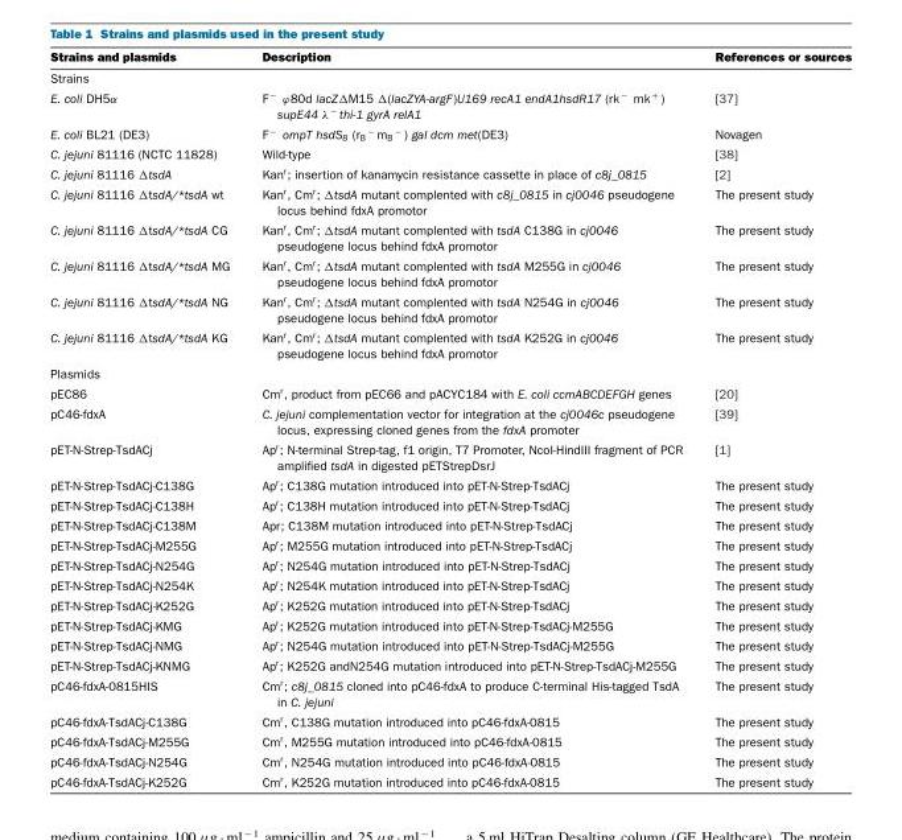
<table><thead><tr><td>Strains and plasmids</td><td>Description</td><td>References or sources</td></tr></thead><tbody><tr><td colspan="3">Strains</td></tr><tr><td>E. coli DH5α</td><td>F <sup>−</sup> ϕ80d lacZΔM15 Δ(lacZYA-argF)U169 recA1 endA1hsdR17 (rk <sup>−</sup> mk <sup>+</sup> ) supE44 λ <sup>−</sup> thi-1 gyrA relA1</td><td>[37]</td></tr><tr><td>E. coli BL21 (DE3)</td><td>F <sup>−</sup> ompT hsdS<sub>B</sub> (r<sub>B</sub> <sup>−</sup> m<sub>B</sub> <sup>−</sup> ) gal dcm met(DE3)</td><td>Novagen</td></tr><tr><td>C. jejuni 81116 (NCTC 11828)</td><td>Wild-type</td><td>[38]</td></tr><tr><td>C. jejuni 81116 ΔtsdA</td><td>Kanr; insertion of kanamycin resistance cassette in place of c8j_0815</td><td>[2]</td></tr><tr><td>C. jejuni 81116 ΔtsdA/*tsdA wt</td><td>Kanr, Cmr; ΔtsdA mutant complented with c8j_0815 in cj0046 pseudogene locus behind fdxA promotor</td><td>The present study</td></tr><tr><td>C. jejuni 81116 ΔtsdA/*tsdA CG</td><td>Kanr, Cmr; ΔtsdA mutant complented with tsdA C138G in cj0046 pseudogene locus behind fdxA promotor</td><td>The present study</td></tr><tr><td>C. jejuni 81116 ΔtsdA/*tsdA MG</td><td>Kanr, Cmr; ΔtsdA mutant complented with tsdA M255G in cj0046 pseudogene locus behind fdxA promotor</td><td>The present study</td></tr><tr><td>C. jejuni 81116 ΔtsdA/*tsdA NG</td><td>Kanr, Cmr; ΔtsdA mutant complented with tsdA N254G in cj0046 pseudogene locus behind fdxA promotor</td><td>The present study</td></tr><tr><td>C. jejuni 81116 ΔtsdA/*tsdA KG</td><td>Kanr, Cmr; ΔtsdA mutant complented with tsdA K252G in cj0046 pseudogene locus behind fdxA promotor</td><td>The present study</td></tr><tr><td colspan="3">Plasmids</td></tr><tr><td>pEC86</td><td>Cmr, product from pEC66 and pACYC184 with E. coli ccmABCDEFGH genes</td><td>[20]</td></tr><tr><td>pC46-fdxA</td><td>C. jejuni complementation vector for integration at the cj0046c pseudogene locus, expressing cloned genes from the fdxA promoter</td><td>[39]</td></tr><tr><td>pET-N-Strep-TsdACj</td><td>Apr; N-terminal Strep-tag, f1 origin, T7 Promoter, NcoI-HindIII fragment of PCR amplified tsdA in digested pETStrepDsrJ</td><td>[1]</td></tr><tr><td>pET-N-Strep-TsdACj-C138G</td><td>Apr; C138G mutation introduced into pET-N-Strep-TsdACj</td><td>The present study</td></tr><tr><td>pET-N-Strep-TsdACj-C138H</td><td>Apr; C138H mutation introduced into pET-N-Strep-TsdACj</td><td>The present study</td></tr><tr><td>pET-N-Strep-TsdACj-C138M</td><td>Apr; C138M mutation introduced into pET-N-Strep-TsdACj</td><td>The present study</td></tr><tr><td>pET-N-Strep-TsdACj-M255G</td><td>Apr; M255G mutation introduced into pET-N-Strep-TsdACj</td><td>The present study</td></tr><tr><td>pET-N-Strep-TsdACj-N254G</td><td>Apr; N254G mutation introduced into pET-N-Strep-TsdACj</td><td>The present study</td></tr><tr><td>pET-N-Strep-TsdACj-N254K</td><td>Apr; N254K mutation introduced into pET-N-Strep-TsdACj</td><td>The present study</td></tr><tr><td>pET-N-Strep-TsdACj-K252G</td><td>Apr; K252G mutation introduced into pET-N-Strep-TsdACj</td><td>The present study</td></tr><tr><td>pET-N-Strep-TsdACj-KMG</td><td>Apr; K252G mutation introduced into pET-N-Strep-TsdACj-M255G</td><td>The present study</td></tr><tr><td>pET-N-Strep-TsdACj-NMG</td><td>Apr; N254G mutation introduced into pET-N-Strep-TsdACj-M255G</td><td>The present study</td></tr><tr><td>pET-N-Strep-TsdACj-KNMG</td><td>Apr; K252G andN254G mutation introduced into pET-N-Strep-TsdACj-M255G</td><td>The present study</td></tr><tr><td>pC46-fdxA-0815HIS</td><td>Cmr; c8j_0815 cloned into pC46-fdxA to produce C-terminal His-tagged TsdA in C. jejuni</td><td>The present study</td></tr><tr><td>pC46-fdxA-TsdACj-C138G</td><td>Cmr, C138G mutation introduced into pC46-fdxA-0815</td><td>The present study</td></tr><tr><td>pC46-fdxA-TsdACj-M255G</td><td>Cmr, M255G mutation introduced into pC46-fdxA-0815</td><td>The present study</td></tr><tr><td>pC46-fdxA-TsdACj-N254G</td><td>Cmr, N254G mutation introduced into pC46-fdxA-0815</td><td>The present study</td></tr><tr><td>pC46-fdxA-TsdACj-K252G</td><td>Cmr, K252G mutation introduced into pC46-fdxA-0815</td><td>The present study</td></tr></tbody></table>